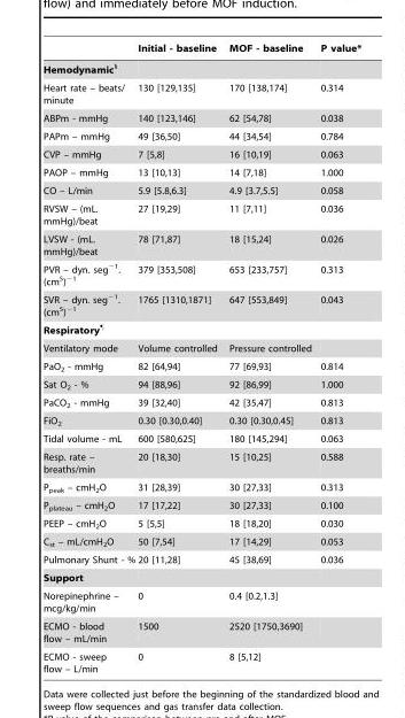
<table><thead><tr><td></td><td>Initial - baseline</td><td>MOF - baseline</td><td>P value*</td></tr></thead><tbody><tr><td colspan="4">Hemodynamic§</td></tr><tr><td>Heart rate – beats/ minute</td><td>130 [129,135]</td><td>170 [138,174]</td><td>0.314</td></tr><tr><td>ABPm - mmHg</td><td>140 [123,146]</td><td>62 [54,78]</td><td>0.038</td></tr><tr><td>PAPm – mmHg</td><td>49 [36,50]</td><td>44 [34,54]</td><td>0.784</td></tr><tr><td>CVP – mmHg</td><td>7 [5,8]</td><td>16 [10,19]</td><td>0.063</td></tr><tr><td>PAOP – mmHg</td><td>13 [10,13]</td><td>14 [7,18]</td><td>1.000</td></tr><tr><td>CO – L/min</td><td>5.9 [5.8,6.3]</td><td>4.9 [3.7,5.5]</td><td>0.058</td></tr><tr><td>RVSW – (mL. mmHg)/beat</td><td>27 [19,29]</td><td>11 [7,11]</td><td>0.036</td></tr><tr><td>LVSW - (mL. mmHg)/beat</td><td>78 [71,87]</td><td>18 [15,24]</td><td>0.026</td></tr><tr><td>PVR – dyn. seg<sup>−1</sup>. (cm<sup>5</sup>)<sup>−1</sup></td><td>379 [353,508]</td><td>653 [233,757]</td><td>0.313</td></tr><tr><td>SVR – dyn. seg<sup>−1</sup>. (cm<sup>5</sup>)<sup>−1</sup></td><td>1765 [1310,1871]</td><td>647 [553,849]</td><td>0.043</td></tr><tr><td colspan="4">Respiratory¶</td></tr><tr><td>Ventilatory mode</td><td>Volume controlled</td><td>Pressure controlled</td><td></td></tr><tr><td>PaO<sub>2</sub> - mmHg</td><td>82 [64,94]</td><td>77 [69,93]</td><td>0.814</td></tr><tr><td>Sat O<sub>2</sub> - %</td><td>94 [88,96]</td><td>92 [86,99]</td><td>1.000</td></tr><tr><td>PaCO<sub>2</sub> - mmHg</td><td>39 [32,40]</td><td>42 [35,47]</td><td>0.813</td></tr><tr><td>FiO<sub>2</sub></td><td>0.30 [0.30,0.40]</td><td>0.30 [0.30,0.45]</td><td>0.813</td></tr><tr><td>Tidal volume - mL</td><td>600 [580,625]</td><td>180 [145,294]</td><td>0.063</td></tr><tr><td>Resp. rate – breaths/min</td><td>20 [18,30]</td><td>15 [10,25]</td><td>0.588</td></tr><tr><td>P<sub>peak</sub> – cmH<sub>2</sub>O</td><td>31 [28,39]</td><td>30 [27,33]</td><td>0.313</td></tr><tr><td>P<sub>plateau</sub> – cmH<sub>2</sub>O</td><td>17 [17,22]</td><td>30 [27,33]</td><td>0.100</td></tr><tr><td>PEEP – cmH<sub>2</sub>O</td><td>5 [5,5]</td><td>18 [18,20]</td><td>0.030</td></tr><tr><td>C<sub>st</sub> – mL/cmH<sub>2</sub>O</td><td>50 [7,54]</td><td>17 [14,29]</td><td>0.053</td></tr><tr><td>Pulmonary Shunt - %</td><td>20 [11,28]</td><td>45 [38,69]</td><td>0.036</td></tr><tr><td colspan="4">Support</td></tr><tr><td>Norepinephrine – mcg/kg/min</td><td>0</td><td>0.4 [0.2,1.3]</td><td></td></tr><tr><td>ECMO - blood flow – mL/min</td><td>1500</td><td>2520 [1750,3690]</td><td></td></tr><tr><td>ECMO - sweep flow – L/min</td><td>0</td><td>8 [5,12]</td><td></td></tr></tbody></table>